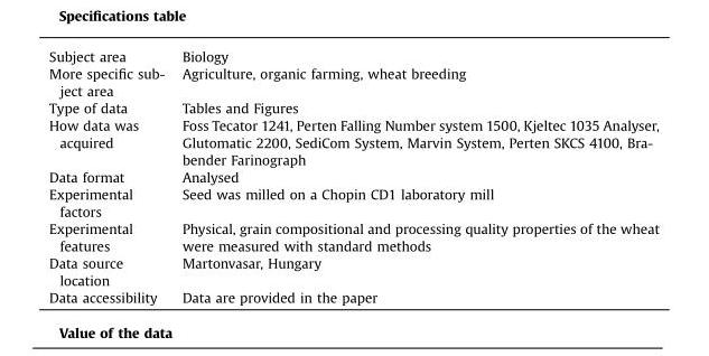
<table><tbody><tr><td>Subject area</td><td>Biology</td></tr><tr><td>More specific sub- ject area</td><td>Agriculture, organic farming, wheat breeding</td></tr><tr><td>Type of data</td><td>Tables and Figures</td></tr><tr><td>How data was acquired</td><td>Foss Tecator 1241, Perten Falling Number system 1500, Kjeltec 1035 Analyser, Glutomatic 2200, SediCom System, Marvin System, Perten SKCS 4100, Bra- bender Farinograph</td></tr><tr><td>Data format</td><td>Analysed</td></tr><tr><td>Experimental factors</td><td>Seed was milled on a Chopin CD1 laboratory mill</td></tr><tr><td>Experimental features</td><td>Physical, grain compositional and processing quality properties of the wheat were measured with standard methods</td></tr><tr><td>Data source location</td><td>Martonvasar, Hungary</td></tr><tr><td>Data accessibility</td><td>Data are provided in the paper</td></tr></tbody></table>